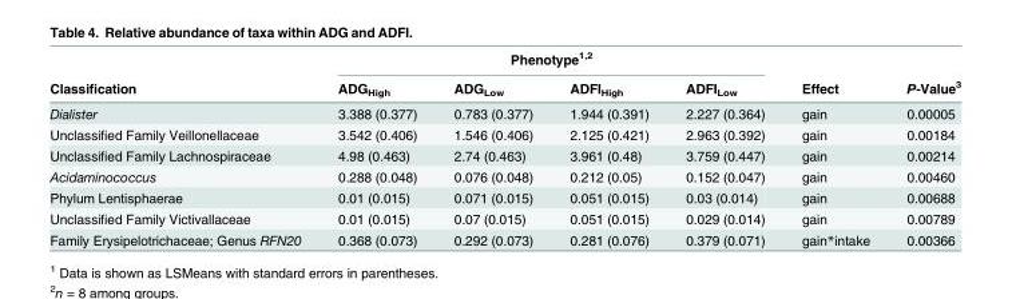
<table><thead><tr><td rowspan="2">Classification</td><td colspan="4">Phenotype<sup>1,2</sup></td><td rowspan="2">Effect</td><td rowspan="2">P-Value<sup>3</sup></td></tr><tr><td>ADG<sub>High</sub></td><td>ADG<sub>Low</sub></td><td>ADFI<sub>High</sub></td><td>ADFI<sub>Low</sub></td></tr></thead><tbody><tr><td>Dialister</td><td>3.388 (0.377)</td><td>0.783 (0.377)</td><td>1.944 (0.391)</td><td>2.227 (0.364)</td><td>gain</td><td>0.00005</td></tr><tr><td>Unclassified Family Veillonellaceae</td><td>3.542 (0.406)</td><td>1.546 (0.406)</td><td>2.125 (0.421)</td><td>2.963 (0.392)</td><td>gain</td><td>0.00184</td></tr><tr><td>Unclassified Family Lachnospiraceae</td><td>4.98 (0.463)</td><td>2.74 (0.463)</td><td>3.961 (0.48)</td><td>3.759 (0.447)</td><td>gain</td><td>0.00214</td></tr><tr><td>Acidaminococcus</td><td>0.288 (0.048)</td><td>0.076 (0.048)</td><td>0.212 (0.05)</td><td>0.152 (0.047)</td><td>gain</td><td>0.00460</td></tr><tr><td>Phylum Lentisphaerae</td><td>0.01 (0.015)</td><td>0.071 (0.015)</td><td>0.051 (0.015)</td><td>0.03 (0.014)</td><td>gain</td><td>0.00688</td></tr><tr><td>Unclassified Family Victivallaceae</td><td>0.01 (0.015)</td><td>0.07 (0.015)</td><td>0.051 (0.015)</td><td>0.029 (0.014)</td><td>gain</td><td>0.00789</td></tr><tr><td>Family Erysipelotrichaceae; Genus RFN20</td><td>0.368 (0.073)</td><td>0.292 (0.073)</td><td>0.281 (0.076)</td><td>0.379 (0.071)</td><td>gain*intake</td><td>0.00366</td></tr></tbody></table>